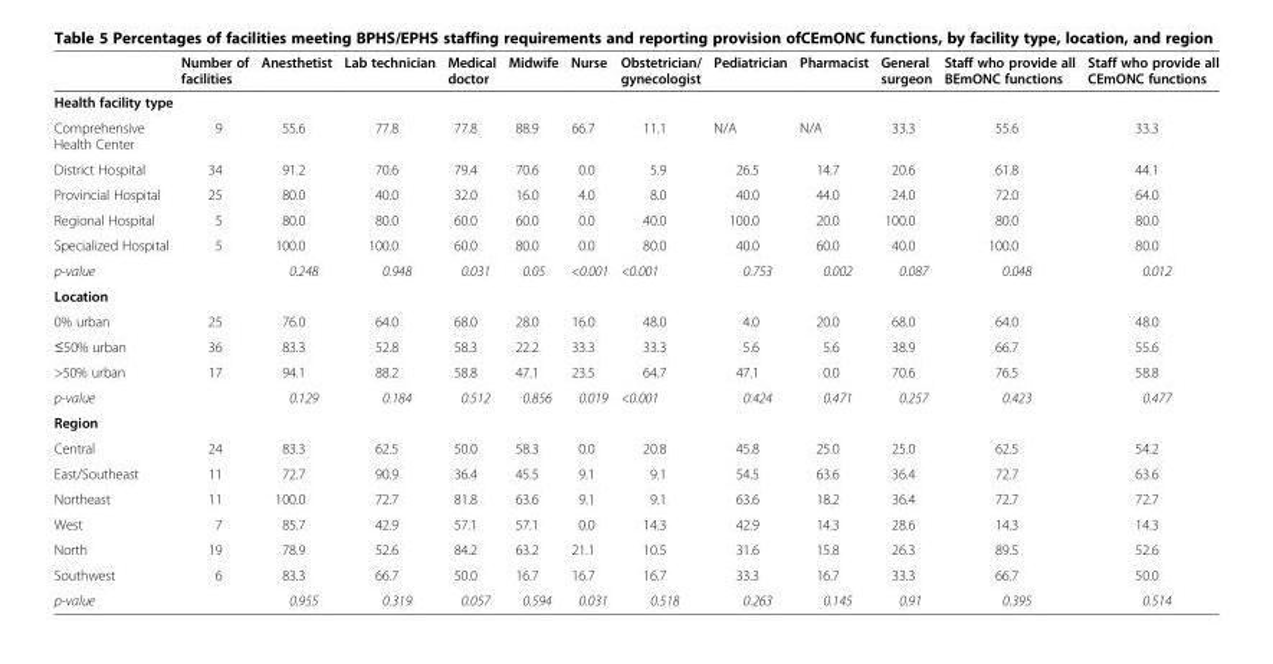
<table><thead><tr><td></td><td>Number of facilities</td><td>Anesthetist</td><td>Lab technician</td><td>Medical doctor</td><td>Midwife</td><td>Nurse</td><td>Obstetrician/ gynecologist</td><td>Pediatrician</td><td>Pharmacist</td><td>General surgeon</td><td>Staff who provide all BEmONC functions</td><td>Staff who provide all CEmONC functions</td></tr></thead><tbody><tr><td colspan="13">Health facility type</td></tr><tr><td>Comprehensive Health Center</td><td>9</td><td>55.6</td><td>77.8</td><td>77.8</td><td>88.9</td><td>66.7</td><td>11.1</td><td>N/A</td><td>N/A</td><td>33.3</td><td>55.6</td><td>33.3</td></tr><tr><td>District Hospital</td><td>34</td><td>91.2</td><td>70.6</td><td>79.4</td><td>70.6</td><td>0.0</td><td>5.9</td><td>26.5</td><td>14.7</td><td>20.6</td><td>61.8</td><td>44.1</td></tr><tr><td>Provincial Hospital</td><td>25</td><td>80.0</td><td>40.0</td><td>32.0</td><td>16.0</td><td>4.0</td><td>8.0</td><td>40.0</td><td>44.0</td><td>24.0</td><td>72.0</td><td>64.0</td></tr><tr><td>Regional Hospital</td><td>5</td><td>80.0</td><td>80.0</td><td>60.0</td><td>60.0</td><td>0.0</td><td>40.0</td><td>100.0</td><td>20.0</td><td>100.0</td><td>80.0</td><td>80.0</td></tr><tr><td>Specialized Hospital</td><td>5</td><td>100.0</td><td>100.0</td><td>60.0</td><td>80.0</td><td>0.0</td><td>80.0</td><td>40.0</td><td>60.0</td><td>40.0</td><td>100.0</td><td>80.0</td></tr><tr><td>p-value</td><td></td><td>0.248</td><td>0.948</td><td>0.031</td><td>0.05</td><td>&lt;0.001</td><td>&lt;0.001</td><td>0.753</td><td>0.002</td><td>0.087</td><td>0.048</td><td>0.012</td></tr><tr><td colspan="13">Location</td></tr><tr><td>0% urban</td><td>25</td><td>76.0</td><td>64.0</td><td>68.0</td><td>28.0</td><td>16.0</td><td>48.0</td><td>4.0</td><td>20.0</td><td>68.0</td><td>64.0</td><td>48.0</td></tr><tr><td>≤50% urban</td><td>36</td><td>83.3</td><td>52.8</td><td>58.3</td><td>22.2</td><td>33.3</td><td>33.3</td><td>5.6</td><td>5.6</td><td>38.9</td><td>66.7</td><td>55.6</td></tr><tr><td>&gt;50% urban</td><td>17</td><td>94.1</td><td>88.2</td><td>58.8</td><td>47.1</td><td>23.5</td><td>64.7</td><td>47.1</td><td>0.0</td><td>70.6</td><td>76.5</td><td>58.8</td></tr><tr><td>p-value</td><td></td><td>0.129</td><td>0.184</td><td>0.512</td><td>0.856</td><td>0.019</td><td>&lt;0.001</td><td>0.424</td><td>0.471</td><td>0.257</td><td>0.423</td><td>0.477</td></tr><tr><td colspan="13">Region</td></tr><tr><td>Central</td><td>24</td><td>83.3</td><td>62.5</td><td>50.0</td><td>58.3</td><td>0.0</td><td>20.8</td><td>45.8</td><td>25.0</td><td>25.0</td><td>62.5</td><td>54.2</td></tr><tr><td>East/Southeast</td><td>11</td><td>72.7</td><td>90.9</td><td>36.4</td><td>45.5</td><td>9.1</td><td>9.1</td><td>54.5</td><td>63.6</td><td>36.4</td><td>72.7</td><td>63.6</td></tr><tr><td>Northeast</td><td>11</td><td>100.0</td><td>72.7</td><td>81.8</td><td>63.6</td><td>9.1</td><td>9.1</td><td>63.6</td><td>18.2</td><td>36.4</td><td>72.7</td><td>72.7</td></tr><tr><td>West</td><td>7</td><td>85.7</td><td>42.9</td><td>57.1</td><td>57.1</td><td>0.0</td><td>14.3</td><td>42.9</td><td>14.3</td><td>28.6</td><td>14.3</td><td>14.3</td></tr><tr><td>North</td><td>19</td><td>78.9</td><td>52.6</td><td>84.2</td><td>63.2</td><td>21.1</td><td>10.5</td><td>31.6</td><td>15.8</td><td>26.3</td><td>89.5</td><td>52.6</td></tr><tr><td>Southwest</td><td>6</td><td>83.3</td><td>66.7</td><td>50.0</td><td>16.7</td><td>16.7</td><td>16.7</td><td>33.3</td><td>16.7</td><td>33.3</td><td>66.7</td><td>50.0</td></tr><tr><td>p-value</td><td></td><td>0.955</td><td>0.319</td><td>0.057</td><td>0.594</td><td>0.031</td><td>0.518</td><td>0.263</td><td>0.145</td><td>0.91</td><td>0.395</td><td>0.514</td></tr></tbody></table>